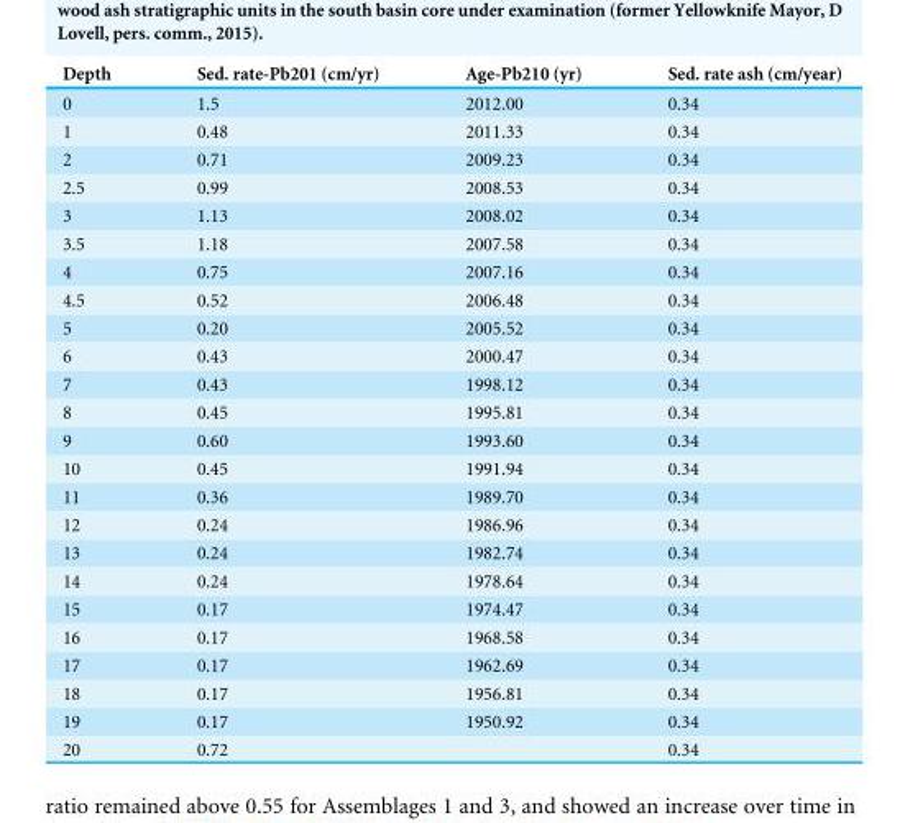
<table><thead><tr><td>Depth</td><td>Sed. rate-Pb201 (cm/yr)</td><td>Age-Pb210 (yr)</td><td>Sed. rate ash (cm/year)</td></tr></thead><tbody><tr><td>0</td><td>1.5</td><td>2012.00</td><td>0.34</td></tr><tr><td>1</td><td>0.48</td><td>2011.33</td><td>0.34</td></tr><tr><td>2</td><td>0.71</td><td>2009.23</td><td>0.34</td></tr><tr><td>2.5</td><td>0.99</td><td>2008.53</td><td>0.34</td></tr><tr><td>3</td><td>1.13</td><td>2008.02</td><td>0.34</td></tr><tr><td>3.5</td><td>1.18</td><td>2007.58</td><td>0.34</td></tr><tr><td>4</td><td>0.75</td><td>2007.16</td><td>0.34</td></tr><tr><td>4.5</td><td>0.52</td><td>2006.48</td><td>0.34</td></tr><tr><td>5</td><td>0.20</td><td>2005.52</td><td>0.34</td></tr><tr><td>6</td><td>0.43</td><td>2000.47</td><td>0.34</td></tr><tr><td>7</td><td>0.43</td><td>1998.12</td><td>0.34</td></tr><tr><td>8</td><td>0.45</td><td>1995.81</td><td>0.34</td></tr><tr><td>9</td><td>0.60</td><td>1993.60</td><td>0.34</td></tr><tr><td>10</td><td>0.45</td><td>1991.94</td><td>0.34</td></tr><tr><td>11</td><td>0.36</td><td>1989.70</td><td>0.34</td></tr><tr><td>12</td><td>0.24</td><td>1986.96</td><td>0.34</td></tr><tr><td>13</td><td>0.24</td><td>1982.74</td><td>0.34</td></tr><tr><td>14</td><td>0.24</td><td>1978.64</td><td>0.34</td></tr><tr><td>15</td><td>0.17</td><td>1974.47</td><td>0.34</td></tr><tr><td>16</td><td>0.17</td><td>1968.58</td><td>0.34</td></tr><tr><td>17</td><td>0.17</td><td>1962.69</td><td>0.34</td></tr><tr><td>18</td><td>0.17</td><td>1956.81</td><td>0.34</td></tr><tr><td>19</td><td>0.17</td><td>1950.92</td><td>0.34</td></tr><tr><td>20</td><td>0.72</td><td></td><td>0.34</td></tr></tbody></table>